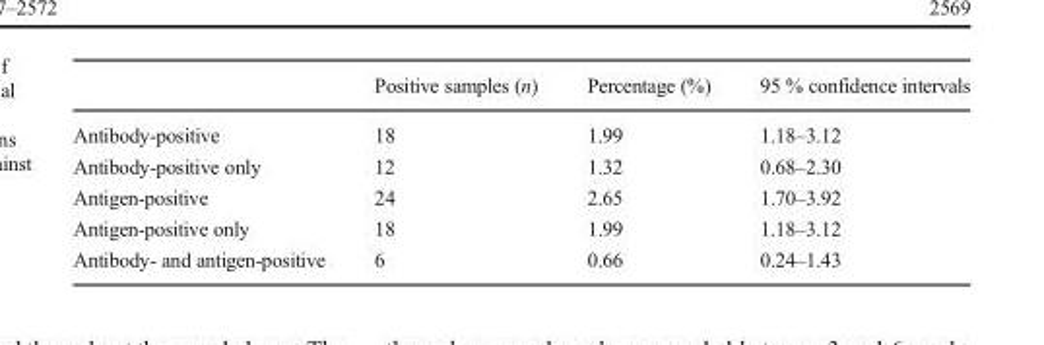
<table><thead><tr><td></td><td>Positive samples (n)</td><td>Percentage (%)</td><td>95 % confidence intervals</td></tr></thead><tbody><tr><td>Antibody-positive</td><td>18</td><td>1.99</td><td>1.18–3.12</td></tr><tr><td>Antibody-positive only</td><td>12</td><td>1.32</td><td>0.68–2.30</td></tr><tr><td>Antigen-positive</td><td>24</td><td>2.65</td><td>1.70–3.92</td></tr><tr><td>Antigen-positive only</td><td>18</td><td>1.99</td><td>1.18–3.12</td></tr><tr><td>Antibody- and antigen-positive</td><td>6</td><td>0.66</td><td>0.24–1.43</td></tr></tbody></table>